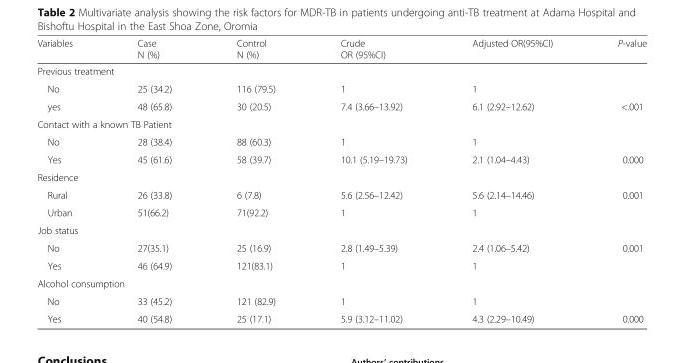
<table><thead><tr><td>Variables</td><td>Case N (%)</td><td>Control N (%)</td><td>Crude OR (95%CI)</td><td>Adjusted OR(95%CI)</td><td>P-value</td></tr></thead><tbody><tr><td colspan="6">Previous treatment</td></tr><tr><td>No</td><td>25 (34.2)</td><td>116 (79.5)</td><td>1</td><td>1</td><td></td></tr><tr><td>yes</td><td>48 (65.8)</td><td>30 (20.5)</td><td>7.4 (3.66–13.92)</td><td>6.1 (2.92–12.62)</td><td>&lt;.001</td></tr><tr><td colspan="6">Contact with a known TB Patient</td></tr><tr><td>No</td><td>28 (38.4)</td><td>88 (60.3)</td><td>1</td><td>1</td><td></td></tr><tr><td>Yes</td><td>45 (61.6)</td><td>58 (39.7)</td><td>10.1 (5.19–19.73)</td><td>2.1 (1.04–4.43)</td><td>0.000</td></tr><tr><td colspan="6">Residence</td></tr><tr><td>Rural</td><td>26 (33.8)</td><td>6 (7.8)</td><td>5.6 (2.56–12.42)</td><td>5.6 (2.14–14.46)</td><td>0.001</td></tr><tr><td>Urban</td><td>51(66.2)</td><td>71(92.2)</td><td>1</td><td>1</td><td></td></tr><tr><td colspan="6">Job status</td></tr><tr><td>No</td><td>27(35.1)</td><td>25 (16.9)</td><td>2.8 (1.49–5.39)</td><td>2.4 (1.06–5.42)</td><td>0.001</td></tr><tr><td>Yes</td><td>46 (64.9)</td><td>121(83.1)</td><td>1</td><td>1</td><td></td></tr><tr><td colspan="6">Alcohol consumption</td></tr><tr><td>No</td><td>33 (45.2)</td><td>121 (82.9)</td><td>1</td><td>1</td><td></td></tr><tr><td>Yes</td><td>40 (54.8)</td><td>25 (17.1)</td><td>5.9 (3.12–11.02)</td><td>4.3 (2.29–10.49)</td><td>0.000</td></tr></tbody></table>